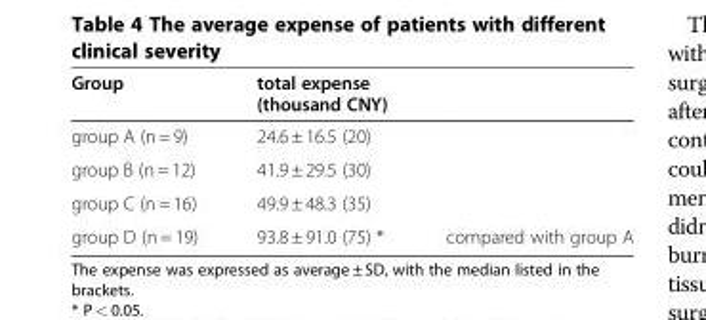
<table><thead><tr><td>Group</td><td>total expense (thousand CNY)</td><td></td></tr></thead><tbody><tr><td>group A (n = 9)</td><td>24.6 ± 16.5 (20)</td><td></td></tr><tr><td>group B (n = 12)</td><td>41.9 ± 29.5 (30)</td><td></td></tr><tr><td>group C (n = 16)</td><td>49.9 ± 48.3 (35)</td><td></td></tr><tr><td>group D (n = 19)</td><td>93.8 ± 91.0 (75) *</td><td>compared with group A</td></tr></tbody></table>